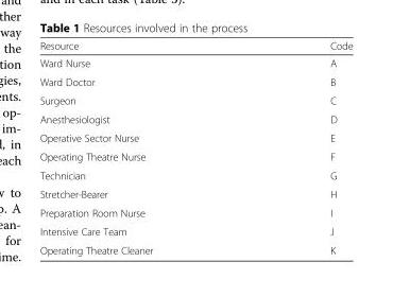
<table><thead><tr><td>Resource</td><td>Code</td></tr></thead><tbody><tr><td>Ward Nurse</td><td>A</td></tr><tr><td>Ward Doctor</td><td>B</td></tr><tr><td>Surgeon</td><td>C</td></tr><tr><td>Anesthesiologist</td><td>D</td></tr><tr><td>Operative Sector Nurse</td><td>E</td></tr><tr><td>Operating Theatre Nurse</td><td>F</td></tr><tr><td>Technician</td><td>G</td></tr><tr><td>Stretcher-Bearer</td><td>H</td></tr><tr><td>Preparation Room Nurse</td><td>I</td></tr><tr><td>Intensive Care Team</td><td>J</td></tr><tr><td>Operating Theatre Cleaner</td><td>K</td></tr></tbody></table>